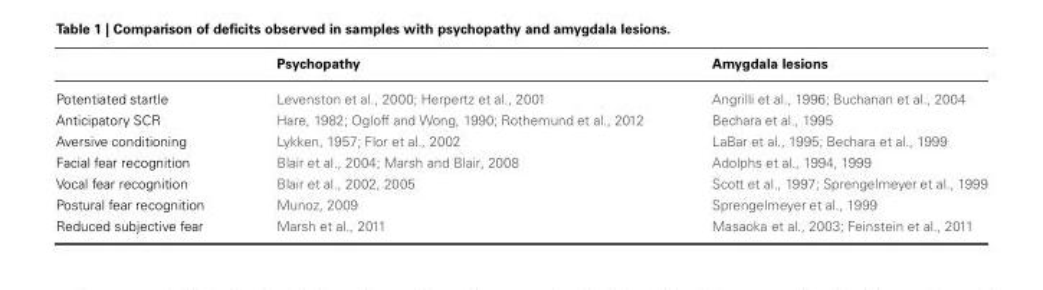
<table><thead><tr><td></td><td>Psychopathy</td><td>Amygdala lesions</td></tr></thead><tbody><tr><td>Potentiated startle</td><td>Levenston et al., 2000; Herpertz et al., 2001</td><td>Angrilli et al., 1996; Buchanan et al., 2004</td></tr><tr><td>Anticipatory SCR</td><td>Hare, 1982; Ogloff and Wong, 1990; Rothemund et al., 2012</td><td>Bechara et al., 1995</td></tr><tr><td>Aversive conditioning</td><td>Lykken, 1957; Flor et al., 2002</td><td>LaBar et al., 1995; Bechara et al., 1999</td></tr><tr><td>Facial fear recognition</td><td>Blair et al., 2004; Marsh and Blair, 2008</td><td>Adolphs et al., 1994, 1999</td></tr><tr><td>Vocal fear recognition</td><td>Blair et al., 2002, 2005</td><td>Scott et al., 1997; Sprengelmeyer et al., 1999</td></tr><tr><td>Postural fear recognition</td><td>Munoz, 2009</td><td>Sprengelmeyer et al., 1999</td></tr><tr><td>Reduced subjective fear</td><td>Marsh et al., 2011</td><td>Masaoka et al., 2003; Feinstein et al., 2011</td></tr></tbody></table>